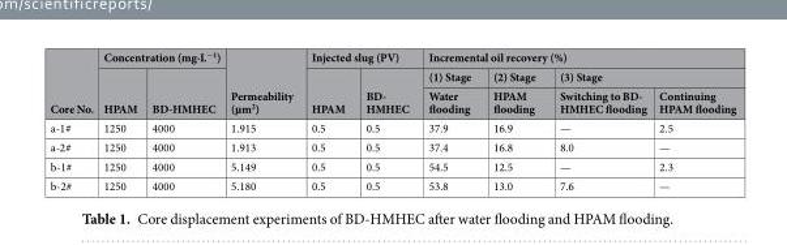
<table><thead><tr><td rowspan="3">Core No.</td><td colspan="2">Concentration (mg·L<sup>−1</sup>)</td><td rowspan="3">Permeability (µm<sup>2</sup>)</td><td colspan="2">Injected slug (PV)</td><td colspan="4">Incremental oil recovery (%)</td></tr><tr><td rowspan="2">HPAM</td><td rowspan="2">BD-HMHEC</td><td rowspan="2">HPAM</td><td rowspan="2">BD- HMHEC</td><td rowspan="2">(1) Stage Water flooding</td><td rowspan="2">(2) Stage HPAM flooding</td><td colspan="2">(3) Stage</td></tr><tr><td>Switching to BD- HMHEC flooding</td><td>Continuing HPAM flooding</td></tr></thead><tbody><tr><td>a-1#</td><td>1250</td><td>4000</td><td>1.915</td><td>0.5</td><td>0.5</td><td>37.9</td><td>16.9</td><td>—</td><td>2.5</td></tr><tr><td>a-2#</td><td>1250</td><td>4000</td><td>1.913</td><td>0.5</td><td>0.5</td><td>37.4</td><td>16.8</td><td>8.0</td><td>—</td></tr><tr><td>b-1#</td><td>1250</td><td>4000</td><td>5.149</td><td>0.5</td><td>0.5</td><td>54.5</td><td>12.5</td><td>—</td><td>2.3</td></tr><tr><td>b-2#</td><td>1250</td><td>4000</td><td>5.180</td><td>0.5</td><td>0.5</td><td>53.8</td><td>13.0</td><td>7.6</td><td>—</td></tr></tbody></table>